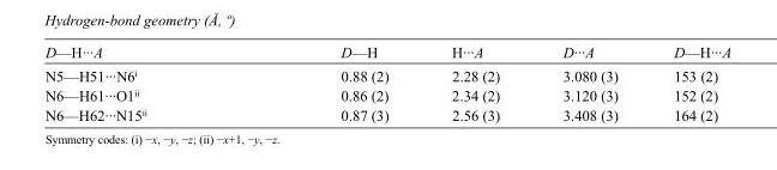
<table><tbody><tr><td>D—H···A</td><td>D—H</td><td>H···A</td><td>D···A</td><td>D—H···A</td></tr><tr><td>N5—H51···N6<sup>i</sup></td><td>0.88 (2)</td><td>2.28 (2)</td><td>3.080 (3)</td><td>153 (2)</td></tr><tr><td>N6—H61···O1<sup>ii</sup></td><td>0.86 (2)</td><td>2.34 (2)</td><td>3.120 (3)</td><td>152 (2)</td></tr><tr><td>N6—H62···N15<sup>ii</sup></td><td>0.87 (3)</td><td>2.56 (3)</td><td>3.408 (3)</td><td>164 (2)</td></tr></tbody></table>